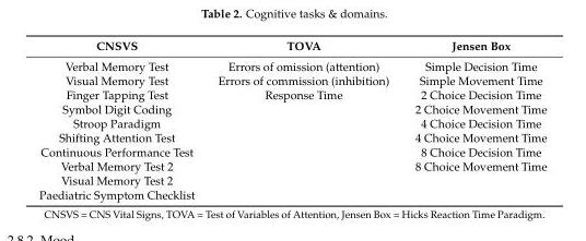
<table><thead><tr><td>CNSVS</td><td>TOVA</td><td>Jensen Box</td></tr></thead><tbody><tr><td>Verbal Memory Test</td><td>Errors of omission (attention)</td><td>Simple Decision Time</td></tr><tr><td>Visual Memory Test</td><td>Errors of commission (inhibition)</td><td>Simple Movement Time</td></tr><tr><td>Finger Tapping Test</td><td>Response Time</td><td>2 Choice Decision Time</td></tr><tr><td>Symbol Digit Coding</td><td></td><td>2 Choice Movement Time</td></tr><tr><td>Stroop Paradigm</td><td></td><td>4 Choice Decision Time</td></tr><tr><td>Shifting Attention Test</td><td></td><td>4 Choice Movement Time</td></tr><tr><td>Continuous Performance Test</td><td></td><td>8 Choice Decision Time</td></tr><tr><td>Verbal Memory Test 2</td><td></td><td>8 Choice Movement Time</td></tr><tr><td colspan="3">Visual Memory Test 2</td></tr><tr><td>Paediatric Symptom Checklist</td><td></td><td></td></tr></tbody></table>